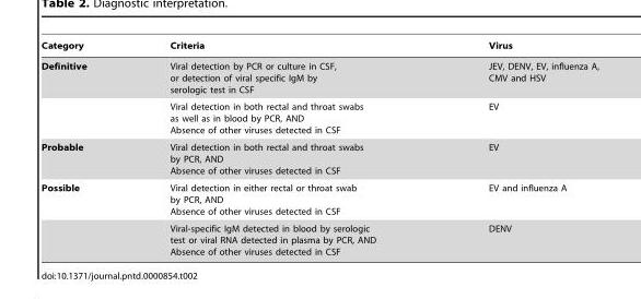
<table><thead><tr><td>Category</td><td>Criteria</td><td>Virus</td></tr></thead><tbody><tr><td rowspan="2">Definitive</td><td>Viral detection by PCR or culture in CSF, or detection of viral specific IgM by serologic test in CSF</td><td>JEV, DENV, EV, influenza A, CMV and HSV</td></tr><tr><td>Viral detection in both rectal and throat swabs as well as in blood by PCR, AND Absence of other viruses detected in CSF</td><td>EV</td></tr><tr><td>Probable</td><td>Viral detection in both rectal and throat swabs by PCR, AND Absence of other viruses detected in CSF</td><td>EV</td></tr><tr><td rowspan="2">Possible</td><td>Viral detection in either rectal or throat swab by PCR, AND Absence of other viruses detected in CSF</td><td>EV and influenza A</td></tr><tr><td>Viral-specific IgM detected in blood by serologic test or viral RNA detected in plasma by PCR, AND Absence of other viruses detected in CSF</td><td>DENV</td></tr></tbody></table>